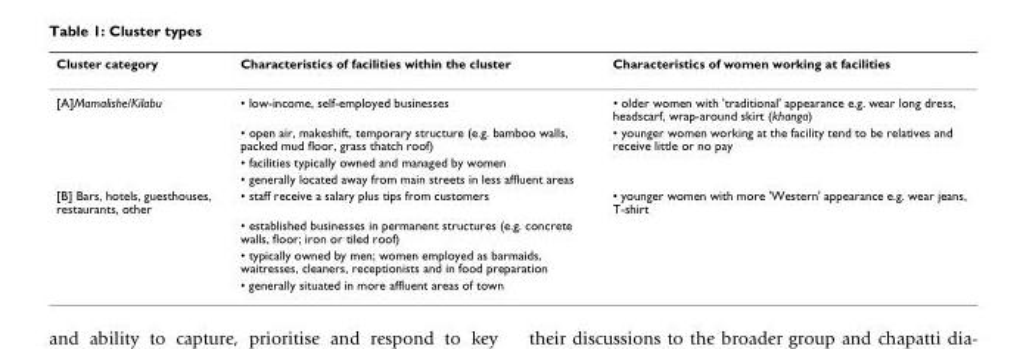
<table><thead><tr><td>Cluster category</td><td>Characteristics of facilities within the cluster</td><td>Characteristics of women working at facilities</td></tr></thead><tbody><tr><td rowspan="4">[A]Mamalishe/Kilabu</td><td>• low-income, self-employed businesses</td><td>• older women with &#x27;traditional&#x27; appearance e.g. wear long dress, headscarf, wrap-around skirt (khanga)</td></tr><tr><td>• open air, makeshift, temporary structure (e.g. bamboo walls, packed mud floor, grass thatch roof)</td><td>• younger women working at the facility tend to be relatives and receive little or no pay</td></tr><tr><td>• facilities typically owned and managed by women</td><td></td></tr><tr><td>• generally located away from main streets in less affluent areas</td><td></td></tr><tr><td rowspan="4">[B] Bars, hotels, guesthouses, restaurants, other</td><td>• staff receive a salary plus tips from customers</td><td>• younger women with more &#x27;Western&#x27; appearance e.g. wear jeans, T-shirt</td></tr><tr><td>• established businesses in permanent structures (e.g. concrete walls, floor; iron or tiled roof)</td><td></td></tr><tr><td>• typically owned by men; women employed as barmaids, waitresses, cleaners, receptionists and in food preparation</td><td></td></tr><tr><td>• generally situated in more affluent areas of town</td><td></td></tr></tbody></table>